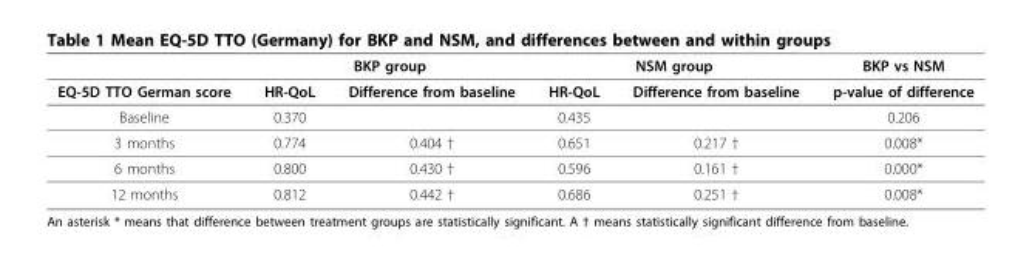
<table><thead><tr><td rowspan="2">EQ-5D TTO German score</td><td colspan="2">BKP group</td><td colspan="2">NSM group</td><td rowspan="2">BKP vs NSM p-value of difference</td></tr><tr><td>HR-QoL</td><td>Difference from baseline</td><td>HR-QoL</td><td>Difference from baseline</td></tr></thead><tbody><tr><td>Baseline</td><td>0.370</td><td></td><td>0.435</td><td></td><td>0.206</td></tr><tr><td>3 months</td><td>0.774</td><td>0.404 †</td><td>0.651</td><td>0.217 †</td><td>0.008*</td></tr><tr><td>6 months</td><td>0.800</td><td>0.430 †</td><td>0.596</td><td>0.161 †</td><td>0.000*</td></tr><tr><td>12 months</td><td>0.812</td><td>0.442 †</td><td>0.686</td><td>0.251 †</td><td>0.008*</td></tr></tbody></table>